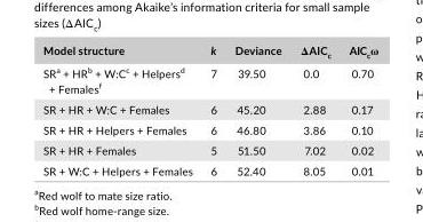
<table><thead><tr><td>Model structure</td><td>k</td><td>Deviance</td><td>ΔAIC<sub>c</sub></td><td>AIC<sub>c</sub>ω</td></tr></thead><tbody><tr><td>SRa + HRb + W:Cc + Helpersd + Femalesf</td><td>7</td><td>39.50</td><td>0.0</td><td>0.70</td></tr><tr><td>SR + HR + W:C + Females</td><td>6</td><td>45.20</td><td>2.88</td><td>0.17</td></tr><tr><td>SR + HR + Helpers + Females</td><td>6</td><td>46.80</td><td>3.86</td><td>0.10</td></tr><tr><td>SR + HR + Females</td><td>5</td><td>51.50</td><td>7.02</td><td>0.02</td></tr><tr><td>SR + W:C + Helpers + Females</td><td>6</td><td>52.40</td><td>8.05</td><td>0.01</td></tr></tbody></table>